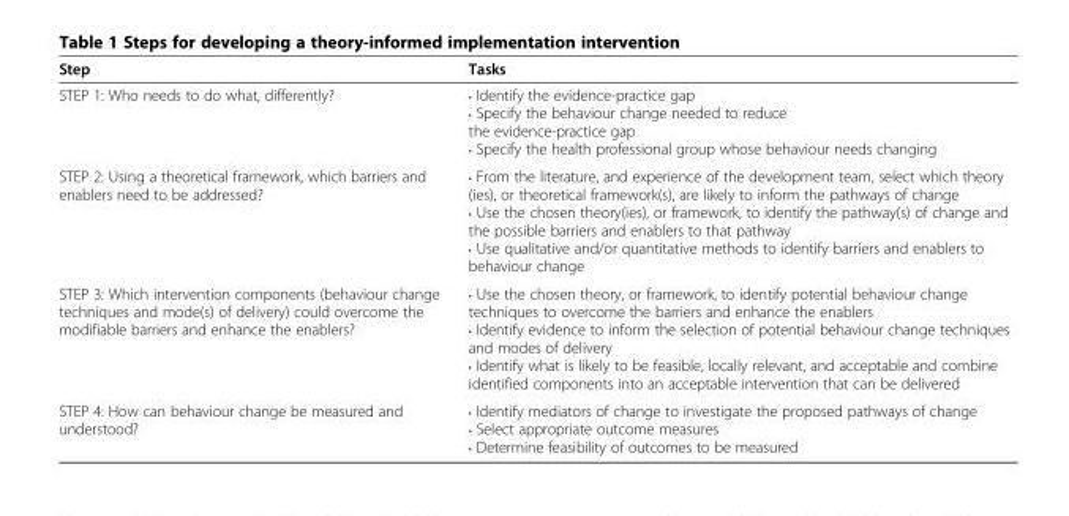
<table><thead><tr><td>Step</td><td>Tasks</td></tr></thead><tbody><tr><td>STEP 1: Who needs to do what, differently?</td><td>• Identify the evidence-practice gap • Specify the behaviour change needed to reduce the evidence-practice gap • Specify the health professional group whose behaviour needs changing</td></tr><tr><td>STEP 2: Using a theoretical framework, which barriers and enablers need to be addressed?</td><td>• From the literature, and experience of the development team, select which theory (ies), or theoretical framework(s), are likely to inform the pathways of change • Use the chosen theory(ies), or framework, to identify the pathway(s) of change and the possible barriers and enablers to that pathway • Use qualitative and/or quantitative methods to identify barriers and enablers to behaviour change</td></tr><tr><td>STEP 3: Which intervention components (behaviour change techniques and mode(s) of delivery) could overcome the modifiable barriers and enhance the enablers?</td><td>• Use the chosen theory, or framework, to identify potential behaviour change techniques to overcome the barriers and enhance the enablers • Identify evidence to inform the selection of potential behaviour change techniques and modes of delivery • Identify what is likely to be feasible, locally relevant, and acceptable and combine identified components into an acceptable intervention that can be delivered</td></tr><tr><td>STEP 4: How can behaviour change be measured and understood?</td><td>• Identify mediators of change to investigate the proposed pathways of change • Select appropriate outcome measures • Determine feasibility of outcomes to be measured</td></tr></tbody></table>